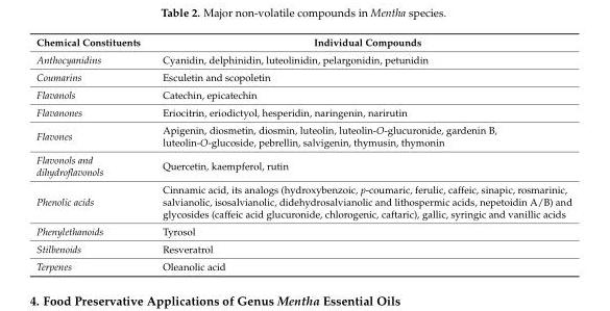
<table><thead><tr><td>Chemical Constituents</td><td>Individual Compounds</td></tr></thead><tbody><tr><td>Anthocyanidins</td><td>Cyanidin, delphinidin, luteolinidin, pelargonidin, petunidin</td></tr><tr><td>Coumarins</td><td>Esculetin and scopoletin</td></tr><tr><td>Flavanols</td><td>Catechin, epicatechin</td></tr><tr><td>Flavanones</td><td>Eriocitrin, eriodictyol, hesperidin, naringenin, narirutin</td></tr><tr><td>Flavones</td><td>Apigenin, diosmetin, diosmin, luteolin, luteolin-O-glucuronide, gardenin B, luteolin-O-glucoside, pebrellin, salvigenin, thymusin, thymonin</td></tr><tr><td>Flavonols and dihydroflavonols</td><td>Quercetin, kaempferol, rutin</td></tr><tr><td>Phenolic acids</td><td>Cinnamic acid, its analogs (hydroxybenzoic, p-coumaric, ferulic, caffeic, sinapic, rosmarinic, salvianolic, isosalvianolic, didehydrosalvianolic and lithospermic acids, nepetoidin A/B) and glycosides (caffeic acid glucuronide, chlorogenic, caftaric), gallic, syringic and vanillic acids</td></tr><tr><td>Phenylethanoids</td><td>Tyrosol</td></tr><tr><td>Stilbenoids</td><td>Resveratrol</td></tr><tr><td>Terpenes</td><td>Oleanolic acid</td></tr></tbody></table>